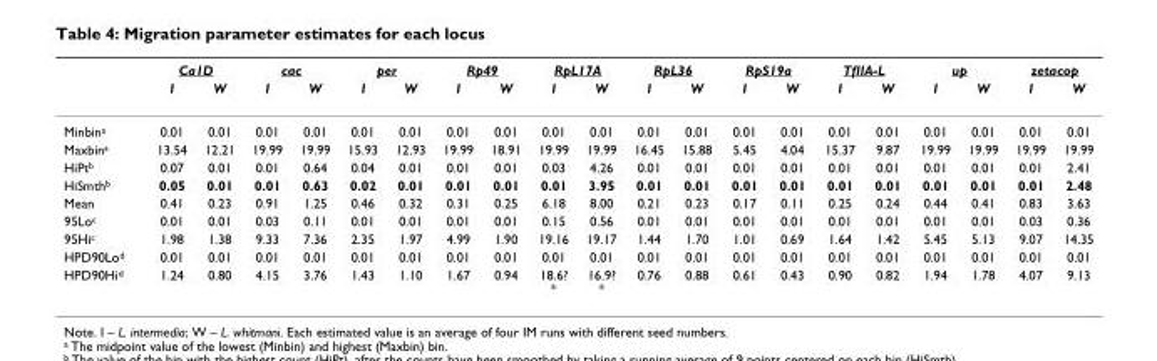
<table><thead><tr><td rowspan="2"></td><td colspan="2">Ca1D</td><td colspan="2">cac</td><td colspan="2">per</td><td colspan="2">Rp49</td><td colspan="2">RpL17A</td><td colspan="2">RpL36</td><td colspan="2">RpS19a</td><td colspan="2">TfIIA-L</td><td colspan="2">up</td><td colspan="2">zetacop</td></tr><tr><td>I</td><td>W</td><td>I</td><td>W</td><td>I</td><td>W</td><td>I</td><td>W</td><td>I</td><td>W</td><td>I</td><td>W</td><td>I</td><td>W</td><td>I</td><td>W</td><td>I</td><td>W</td><td>I</td><td>W</td></tr></thead><tbody><tr><td>Minbin<sup>a</sup></td><td>0.01</td><td>0.01</td><td>0.01</td><td>0.01</td><td>0.01</td><td>0.01</td><td>0.01</td><td>0.01</td><td>0.01</td><td>0.01</td><td>0.01</td><td>0.01</td><td>0.01</td><td>0.01</td><td>0.01</td><td>0.01</td><td>0.01</td><td>0.01</td><td>0.01</td><td>0.01</td></tr><tr><td>Maxbin<sup>a</sup></td><td>13.54</td><td>12.21</td><td>19.99</td><td>19.99</td><td>15.93</td><td>12.93</td><td>19.99</td><td>18.91</td><td>19.99</td><td>19.99</td><td>16.45</td><td>15.88</td><td>5.45</td><td>4.04</td><td>15.37</td><td>9.87</td><td>19.99</td><td>19.99</td><td>19.99</td><td>19.99</td></tr><tr><td>HiPt<sup>b</sup></td><td>0.07</td><td>0.01</td><td>0.01</td><td>0.64</td><td>0.04</td><td>0.01</td><td>0.01</td><td>0.01</td><td>0.03</td><td>4.26</td><td>0.01</td><td>0.01</td><td>0.01</td><td>0.01</td><td>0.01</td><td>0.01</td><td>0.01</td><td>0.01</td><td>0.01</td><td>2.41</td></tr><tr><td>HiSmth<sup>b</sup></td><td>0.05</td><td>0.01</td><td>0.01</td><td>0.63</td><td>0.02</td><td>0.01</td><td>0.01</td><td>0.01</td><td>0.01</td><td>3.95</td><td>0.01</td><td>0.01</td><td>0.01</td><td>0.01</td><td>0.01</td><td>0.01</td><td>0.01</td><td>0.01</td><td>0.01</td><td>2.48</td></tr><tr><td>Mean</td><td>0.41</td><td>0.23</td><td>0.91</td><td>1.25</td><td>0.46</td><td>0.32</td><td>0.31</td><td>0.25</td><td>6.18</td><td>8.00</td><td>0.21</td><td>0.23</td><td>0.17</td><td>0.11</td><td>0.25</td><td>0.24</td><td>0.44</td><td>0.41</td><td>0.83</td><td>3.63</td></tr><tr><td>95Lo<sup>c</sup></td><td>0.01</td><td>0.01</td><td>0.03</td><td>0.11</td><td>0.01</td><td>0.01</td><td>0.01</td><td>0.01</td><td>0.15</td><td>0.56</td><td>0.01</td><td>0.01</td><td>0.01</td><td>0.01</td><td>0.01</td><td>0.01</td><td>0.01</td><td>0.01</td><td>0.03</td><td>0.36</td></tr><tr><td>95Hi<sup>c</sup></td><td>1.98</td><td>1.38</td><td>9.33</td><td>7.36</td><td>2.35</td><td>1.97</td><td>4.99</td><td>1.90</td><td>19.16</td><td>19.17</td><td>1.44</td><td>1.70</td><td>1.01</td><td>0.69</td><td>1.64</td><td>1.42</td><td>5.45</td><td>5.13</td><td>9.07</td><td>14.35</td></tr><tr><td>HPD90Lo<sup>d</sup></td><td>0.01</td><td>0.01</td><td>0.01</td><td>0.01</td><td>0.01</td><td>0.01</td><td>0.01</td><td>0.01</td><td>0.01</td><td>0.01</td><td>0.01</td><td>0.01</td><td>0.01</td><td>0.01</td><td>0.01</td><td>0.01</td><td>0.01</td><td>0.01</td><td>0.01</td><td>0.01</td></tr><tr><td>HPD90Hi<sup>d</sup></td><td>1.24</td><td>0.80</td><td>4.15</td><td>3.76</td><td>1.43</td><td>1.10</td><td>1.67</td><td>0.94</td><td>18.6? *</td><td>16.9? *</td><td>0.76</td><td>0.88</td><td>0.61</td><td>0.43</td><td>0.90</td><td>0.82</td><td>1.94</td><td>1.78</td><td>4.07</td><td>9.13</td></tr></tbody></table>